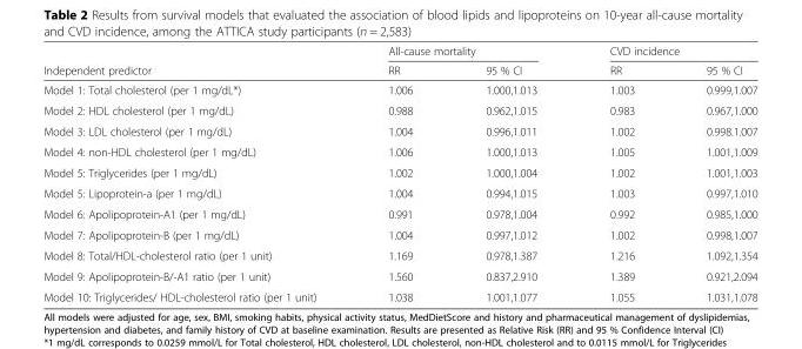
<table><thead><tr><td rowspan="2">Independent predictor</td><td colspan="2">All-cause mortality</td><td colspan="2">CVD incidence</td></tr><tr><td>RR</td><td>95 % CI</td><td>RR</td><td>95 % CI</td></tr></thead><tbody><tr><td>Model 1: Total cholesterol (per 1 mg/dL*)</td><td>1.006</td><td>1.000,1.013</td><td>1.003</td><td>0.999,1.007</td></tr><tr><td>Model 2: HDL cholesterol (per 1 mg/dL)</td><td>0.988</td><td>0.962,1.015</td><td>0.983</td><td>0.967,1.000</td></tr><tr><td>Model 3: LDL cholesterol (per 1 mg/dL)</td><td>1.004</td><td>0.996,1.011</td><td>1.002</td><td>0.998.1.007</td></tr><tr><td>Model 4: non-HDL cholesterol (per 1 mg/dL)</td><td>1.006</td><td>1.000,1.013</td><td>1.005</td><td>1.001,1.009</td></tr><tr><td>Model 5: Triglycerides (per 1 mg/dL)</td><td>1.002</td><td>1.000,1.004</td><td>1.002</td><td>1.001,1.003</td></tr><tr><td>Model 5: Lipoprotein-a (per 1 mg/dL)</td><td>1.004</td><td>0.994,1.015</td><td>1.003</td><td>0.997,1.010</td></tr><tr><td>Model 6: Apolipoprotein-A1 (per 1 mg/dL)</td><td>0.991</td><td>0.978,1.004</td><td>0.992</td><td>0.985,1.000</td></tr><tr><td>Model 7: Apolipoprotein-B (per 1 mg/dL)</td><td>1.004</td><td>0.997,1.012</td><td>1.002</td><td>0.998,1.007</td></tr><tr><td>Model 8: Total/HDL-cholesterol ratio (per 1 unit)</td><td>1.169</td><td>0.978,1.387</td><td>1.216</td><td>1.092,1.354</td></tr><tr><td>Model 9: Apolipoprotein-B/-A1 ratio (per 1 unit)</td><td>1.560</td><td>0.837,2.910</td><td>1.389</td><td>0.921,2.094</td></tr><tr><td>Model 10: Triglycerides/ HDL-cholesterol ratio (per 1 unit)</td><td>1.038</td><td>1.001,1.077</td><td>1.055</td><td>1.031,1.078</td></tr></tbody></table>